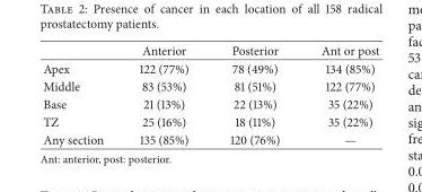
<table><thead><tr><td></td><td>Anterior</td><td>Posterior</td><td>Ant or post</td></tr></thead><tbody><tr><td>Apex</td><td>122 (77%)</td><td>78 (49%)</td><td>134 (85%)</td></tr><tr><td>Middle</td><td>83 (53%)</td><td>81 (51%)</td><td>122 (77%)</td></tr><tr><td>Base</td><td>21 (13%)</td><td>22 (13%)</td><td>35 (22%)</td></tr><tr><td>TZ</td><td>25 (16%)</td><td>18 (11%)</td><td>35 (22%)</td></tr><tr><td>Any section</td><td>135 (85%)</td><td>120 (76%)</td><td>—</td></tr></tbody></table>